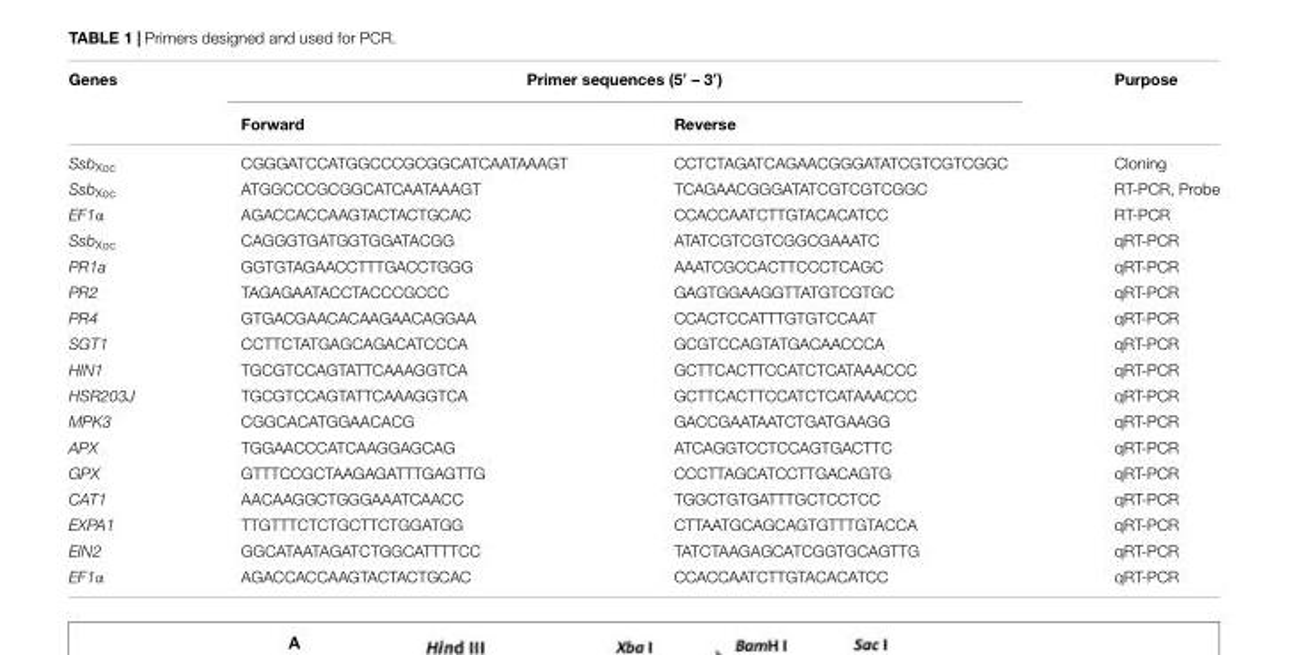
<table><thead><tr><td rowspan="2">Genes</td><td colspan="2">Primer sequences (5′ – 3′)</td><td rowspan="2">Purpose</td></tr><tr><td>Forward</td><td>Reverse</td></tr></thead><tbody><tr><td>Ssb<sub>Xoc</sub></td><td>CGGGATCCATGGCCCGCGGCATCAATAAAGT</td><td>CCTCTAGATCAGAACGGGATATCGTCGTCGGC</td><td>Cloning</td></tr><tr><td>Ssb<sub>Xoc</sub></td><td>ATGGCCCGCGGCATCAATAAAGT</td><td>TCAGAACGGGATATCGTCGTCGGC</td><td>RT-PCR, Probe</td></tr><tr><td>EF1α</td><td>AGACCACCAAGTACTACTGCAC</td><td>CCACCAATCTTGTACACATCC</td><td>RT-PCR</td></tr><tr><td>Ssb<sub>Xoc</sub></td><td>CAGGGTGATGGTGGATACGG</td><td>ATATCGTCGTCGGCGAAATC</td><td>qRT-PCR</td></tr><tr><td>PR1a</td><td>GGTGTAGAACCTTTGACCTGGG</td><td>AAATCGCCACTTCCCTCAGC</td><td>qRT-PCR</td></tr><tr><td>PR2</td><td>TAGAGAATACCTACCCGCCC</td><td>GAGTGGAAGGTTATGTCGTGC</td><td>qRT-PCR</td></tr><tr><td>PR4</td><td>GTGACGAACACAAGAACAGGAA</td><td>CCACTCCATTTGTGTCCAAT</td><td>qRT-PCR</td></tr><tr><td>SGT1</td><td>CCTTCTATGAGCAGACATCCCA</td><td>GCGTCCAGTATGACAACCCA</td><td>qRT-PCR</td></tr><tr><td>HIN1</td><td>TGCGTCCAGTATTCAAAGGTCA</td><td>GCTTCACTTCCATCTCATAAACCC</td><td>qRT-PCR</td></tr><tr><td>HSR203J</td><td>TGCGTCCAGTATTCAAAGGTCA</td><td>GCTTCACTTCCATCTCATAAACCC</td><td>qRT-PCR</td></tr><tr><td>MPK3</td><td>CGGCACATGGAACACG</td><td>GACCGAATAATCTGATGAAGG</td><td>qRT-PCR</td></tr><tr><td>APX</td><td>TGGAACCCATCAAGGAGCAG</td><td>ATCAGGTCCTCCAGTGACTTC</td><td>qRT-PCR</td></tr><tr><td>GPX</td><td>GTTTCCGCTAAGAGATTTGAGTTG</td><td>CCCTTAGCATCCTTGACAGTG</td><td>qRT-PCR</td></tr><tr><td>CAT1</td><td>AACAAGGCTGGGAAATCAACC</td><td>TGGCTGTGATTTGCTCCTCC</td><td>qRT-PCR</td></tr><tr><td>EXPA1</td><td>TTGTTTCTCTGCTTCTGGATGG</td><td>CTTAATGCAGCAGTGTTTGTACCA</td><td>qRT-PCR</td></tr><tr><td>EIN2</td><td>GGCATAATAGATCTGGCATTTTCC</td><td>TATCTAAGAGCATCGGTGCAGTTG</td><td>qRT-PCR</td></tr><tr><td>EF1α</td><td>AGACCACCAAGTACTACTGCAC</td><td>CCACCAATCTTGTACACATCC</td><td>qRT-PCR</td></tr></tbody></table>